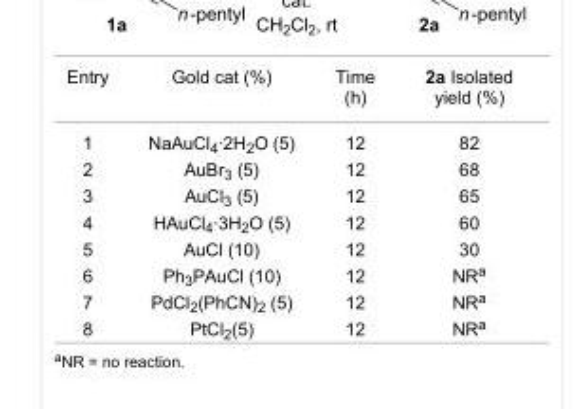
<table><tbody><tr><td>Entry</td><td>Gold cat (%)</td><td>Time (h)</td><td>2a Isolated yield (%)</td></tr><tr><td>1</td><td>NaAuCl<sub>4</sub>·2H<sub>2</sub>O (5)</td><td>12</td><td>82</td></tr><tr><td>2</td><td>AuBr<sub>3</sub> (5)</td><td>12</td><td>68</td></tr><tr><td>3</td><td>AuCl<sub>3</sub> (5)</td><td>12</td><td>65</td></tr><tr><td>4</td><td>HAuCl<sub>4</sub>·3H<sub>2</sub>O (5)</td><td>12</td><td>60</td></tr><tr><td>5</td><td>AuCl (10)</td><td>12</td><td>30</td></tr><tr><td>6</td><td>Ph<sub>3</sub>PAuCl (10)</td><td>12</td><td>NR<sup>a</sup></td></tr><tr><td>7</td><td>PdCl<sub>2</sub>(PhCN)<sub>2</sub> (5)</td><td>12</td><td>NR<sup>a</sup></td></tr><tr><td>8</td><td>PtCl<sub>2</sub>(5)</td><td>12</td><td>NR<sup>a</sup></td></tr></tbody></table>